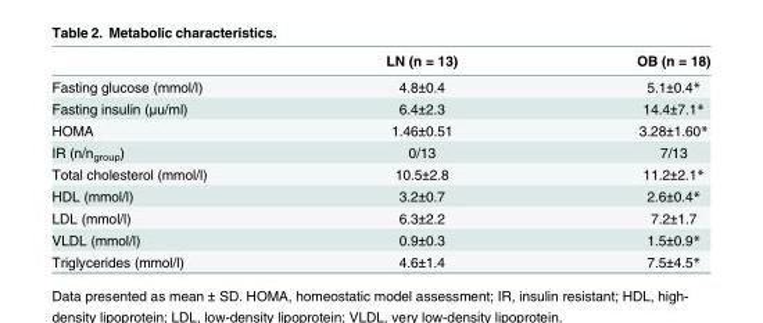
<table><thead><tr><td></td><td>LN (n = 13)</td><td>OB (n = 18)</td></tr></thead><tbody><tr><td>Fasting glucose (mmol/l)</td><td>4.8±0.4</td><td>5.1±0.4*</td></tr><tr><td>Fasting insulin (μu/ml)</td><td>6.4±2.3</td><td>14.4±7.1*</td></tr><tr><td>HOMA</td><td>1.46±0.51</td><td>3.28±1.60*</td></tr><tr><td>IR (n/n<sub>group</sub>)</td><td>0/13</td><td>7/13</td></tr><tr><td>Total cholesterol (mmol/l)</td><td>10.5±2.8</td><td>11.2±2.1*</td></tr><tr><td>HDL (mmol/l)</td><td>3.2±0.7</td><td>2.6±0.4*</td></tr><tr><td>LDL (mmol/l)</td><td>6.3±2.2</td><td>7.2±1.7</td></tr><tr><td>VLDL (mmol/l)</td><td>0.9±0.3</td><td>1.5±0.9*</td></tr><tr><td>Triglycerides (mmol/l)</td><td>4.6±1.4</td><td>7.5±4.5*</td></tr></tbody></table>